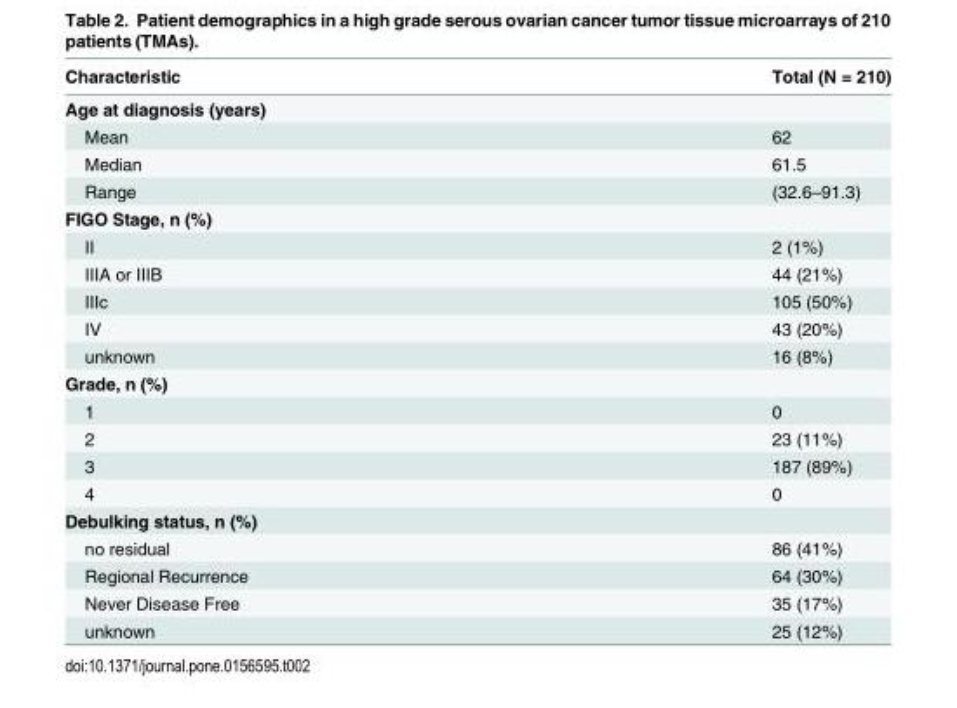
<table><thead><tr><td>Characteristic</td><td>Total (N = 210)</td></tr></thead><tbody><tr><td colspan="2">Age at diagnosis (years)</td></tr><tr><td>Mean</td><td>62</td></tr><tr><td>Median</td><td>61.5</td></tr><tr><td>Range</td><td>(32.6–91.3)</td></tr><tr><td colspan="2">FIGO Stage, n (%)</td></tr><tr><td>II</td><td>2 (1%)</td></tr><tr><td>IIIA or IIIB</td><td>44 (21%)</td></tr><tr><td>IIIc</td><td>105 (50%)</td></tr><tr><td>IV</td><td>43 (20%)</td></tr><tr><td>unknown</td><td>16 (8%)</td></tr><tr><td colspan="2">Grade, n (%)</td></tr><tr><td>1</td><td>0</td></tr><tr><td>2</td><td>23 (11%)</td></tr><tr><td>3</td><td>187 (89%)</td></tr><tr><td>4</td><td>0</td></tr><tr><td colspan="2">Debulking status, n (%)</td></tr><tr><td>no residual</td><td>86 (41%)</td></tr><tr><td>Regional Recurrence</td><td>64 (30%)</td></tr><tr><td>Never Disease Free</td><td>35 (17%)</td></tr><tr><td>unknown</td><td>25 (12%)</td></tr></tbody></table>